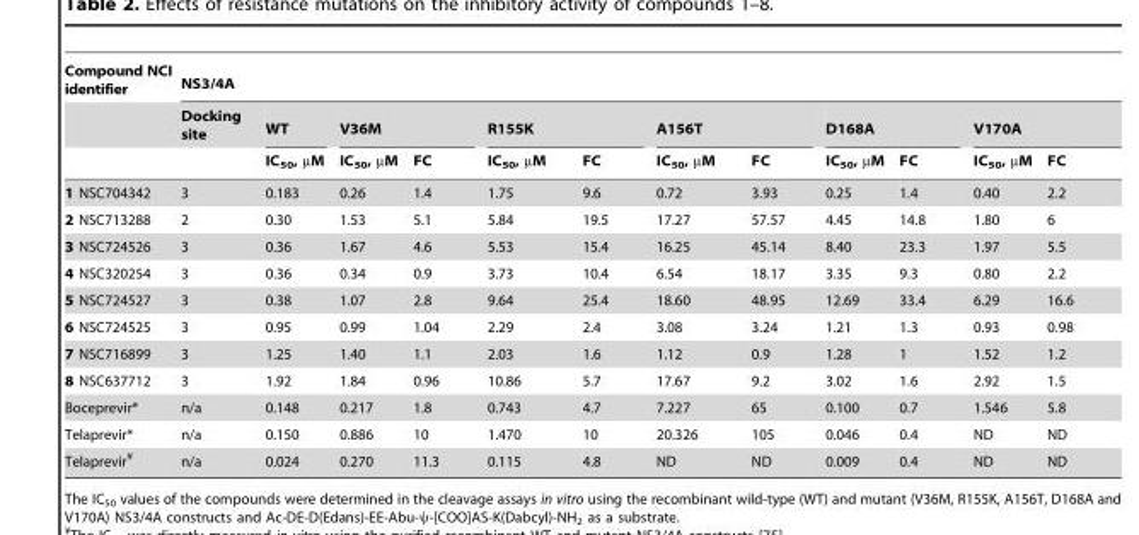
<table><thead><tr><td rowspan="3">Compound NCI identifier</td><td colspan="12">NS3/4A</td></tr><tr><td rowspan="2">Docking site</td><td rowspan="2">WT IC<sub>50</sub>, µM</td><td colspan="2">V36M</td><td colspan="2">R155K</td><td colspan="2">A156T</td><td colspan="2">D168A</td><td colspan="2">V170A</td></tr><tr><td>IC<sub>50</sub>, µM</td><td>FC</td><td>IC<sub>50</sub>, µM</td><td>FC</td><td>IC<sub>50</sub>, µM</td><td>FC</td><td>IC<sub>50</sub>, µM</td><td>FC</td><td>IC<sub>50</sub>, µM</td><td>FC</td></tr></thead><tbody><tr><td>1 NSC704342</td><td>3</td><td>0.183</td><td>0.26</td><td>1.4</td><td>1.75</td><td>9.6</td><td>0.72</td><td>3.93</td><td>0.25</td><td>1.4</td><td>0.40</td><td>2.2</td></tr><tr><td>2 NSC713288</td><td>2</td><td>0.30</td><td>1.53</td><td>5.1</td><td>5.84</td><td>19.5</td><td>17.27</td><td>57.57</td><td>4.45</td><td>14.8</td><td>1.80</td><td>6</td></tr><tr><td>3 NSC724526</td><td>3</td><td>0.36</td><td>1.67</td><td>4.6</td><td>5.53</td><td>15.4</td><td>16.25</td><td>45.14</td><td>8.40</td><td>23.3</td><td>1.97</td><td>5.5</td></tr><tr><td>4 NSC320254</td><td>3</td><td>0.36</td><td>0.34</td><td>0.9</td><td>3.73</td><td>10.4</td><td>6.54</td><td>18.17</td><td>3.35</td><td>9.3</td><td>0.80</td><td>2.2</td></tr><tr><td>5 NSC724527</td><td>3</td><td>0.38</td><td>1.07</td><td>2.8</td><td>9.64</td><td>25.4</td><td>18.60</td><td>48.95</td><td>12.69</td><td>33.4</td><td>6.29</td><td>16.6</td></tr><tr><td>6 NSC724525</td><td>3</td><td>0.95</td><td>0.99</td><td>1.04</td><td>2.29</td><td>2.4</td><td>3.08</td><td>3.24</td><td>1.21</td><td>1.3</td><td>0.93</td><td>0.98</td></tr><tr><td>7 NSC716899</td><td>3</td><td>1.25</td><td>1.40</td><td>1.1</td><td>2.03</td><td>1.6</td><td>1.12</td><td>0.9</td><td>1.28</td><td>1</td><td>1.52</td><td>1.2</td></tr><tr><td>8 NSC637712</td><td>3</td><td>1.92</td><td>1.84</td><td>0.96</td><td>10.86</td><td>5.7</td><td>17.67</td><td>9.2</td><td>3.02</td><td>1.6</td><td>2.92</td><td>1.5</td></tr><tr><td>Boceprevir*</td><td>n/a</td><td>0.148</td><td>0.217</td><td>1.8</td><td>0.743</td><td>4.7</td><td>7.227</td><td>65</td><td>0.100</td><td>0.7</td><td>1.546</td><td>5.8</td></tr><tr><td>Telaprevir*</td><td>n/a</td><td>0.150</td><td>0.886</td><td>10</td><td>1.470</td><td>10</td><td>20.326</td><td>105</td><td>0.046</td><td>0.4</td><td>ND</td><td>ND</td></tr><tr><td>Telaprevir¥</td><td>n/a</td><td>0.024</td><td>0.270</td><td>11.3</td><td>0.115</td><td>4.8</td><td>ND</td><td>ND</td><td>0.009</td><td>0.4</td><td>ND</td><td>ND</td></tr></tbody></table>